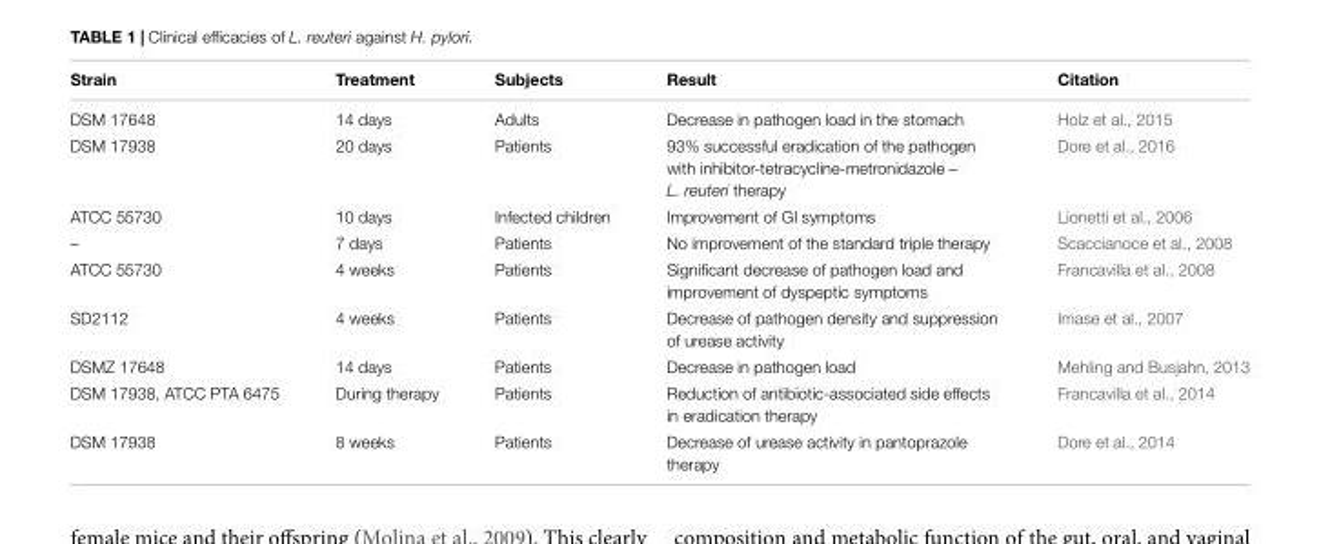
<table><thead><tr><td>Strain</td><td>Treatment</td><td>Subjects</td><td>Result</td><td>Citation</td></tr></thead><tbody><tr><td>DSM 17648</td><td>14 days</td><td>Adults</td><td>Decrease in pathogen load in the stomach</td><td>Holz et al., 2015</td></tr><tr><td>DSM 17938</td><td>20 days</td><td>Patients</td><td>93% successful eradication of the pathogen with inhibitor-tetracycline-metronidazole – L. reuteri therapy</td><td>Dore et al., 2016</td></tr><tr><td>ATCC 55730</td><td>10 days</td><td>Infected children</td><td>Improvement of GI symptoms</td><td>Lionetti et al., 2006</td></tr><tr><td>–</td><td>7 days</td><td>Patients</td><td>No improvement of the standard triple therapy</td><td>Scaccianoce et al., 2008</td></tr><tr><td>ATCC 55730</td><td>4 weeks</td><td>Patients</td><td>Significant decrease of pathogen load and improvement of dyspeptic symptoms</td><td>Francavilla et al., 2008</td></tr><tr><td>SD2112</td><td>4 weeks</td><td>Patients</td><td>Decrease of pathogen density and suppression of urease activity</td><td>Imase et al., 2007</td></tr><tr><td>DSMZ 17648</td><td>14 days</td><td>Patients</td><td>Decrease in pathogen load</td><td>Mehling and Busjahn, 2013</td></tr><tr><td>DSM 17938, ATCC PTA 6475</td><td>During therapy</td><td>Patients</td><td>Reduction of antibiotic-associated side effects in eradication therapy</td><td>Francavilla et al., 2014</td></tr><tr><td>DSM 17938</td><td>8 weeks</td><td>Patients</td><td>Decrease of urease activity in pantoprazole therapy</td><td>Dore et al., 2014</td></tr></tbody></table>